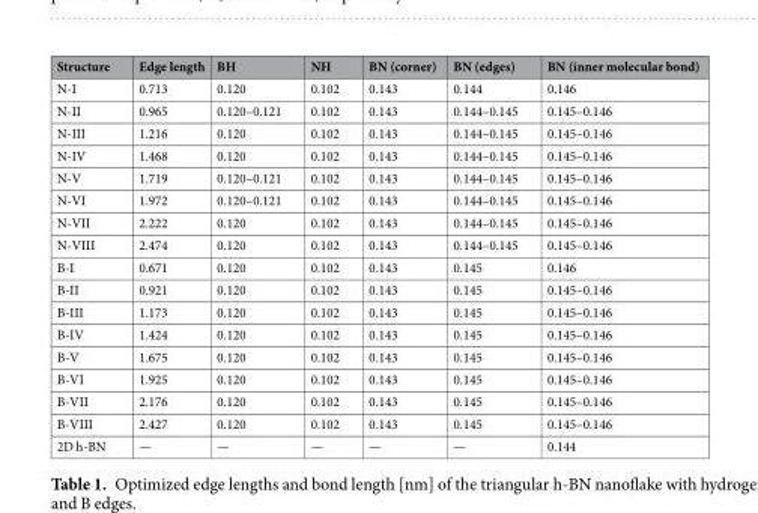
<table><thead><tr><td>Structure</td><td>Edge length</td><td>BH</td><td>NH</td><td>BN (corner)</td><td>BN (edges)</td><td>BN (inner molecular bond)</td></tr></thead><tbody><tr><td>N-I</td><td>0.713</td><td>0.120</td><td>0.102</td><td>0.143</td><td>0.144</td><td>0.146</td></tr><tr><td>N-II</td><td>0.965</td><td>0.120–0.121</td><td>0.102</td><td>0.143</td><td>0.144–0.145</td><td>0.145–0.146</td></tr><tr><td>N-III</td><td>1.216</td><td>0.120</td><td>0.102</td><td>0.143</td><td>0.144–0.145</td><td>0.145–0.146</td></tr><tr><td>N-IV</td><td>1.468</td><td>0.120</td><td>0.102</td><td>0.143</td><td>0.144–0.145</td><td>0.145–0.146</td></tr><tr><td>N-V</td><td>1.719</td><td>0.120–0.121</td><td>0.102</td><td>0.143</td><td>0.144–0.145</td><td>0.145–0.146</td></tr><tr><td>N-VI</td><td>1.972</td><td>0.120–0.121</td><td>0.102</td><td>0.143</td><td>0.144–0.145</td><td>0.145–0.146</td></tr><tr><td>N-VII</td><td>2.222</td><td>0.120</td><td>0.102</td><td>0.143</td><td>0.144–0.145</td><td>0.145–0.146</td></tr><tr><td>N-VIII</td><td>2.474</td><td>0.120</td><td>0.102</td><td>0.143</td><td>0.144–0.145</td><td>0.145–0.146</td></tr><tr><td>B-I</td><td>0.671</td><td>0.120</td><td>0.102</td><td>0.143</td><td>0.145</td><td>0.146</td></tr><tr><td>B-II</td><td>0.921</td><td>0.120</td><td>0.102</td><td>0.143</td><td>0.145</td><td>0.145–0.146</td></tr><tr><td>B-III</td><td>1.173</td><td>0.120</td><td>0.102</td><td>0.143</td><td>0.145</td><td>0.145–0.146</td></tr><tr><td>B-IV</td><td>1.424</td><td>0.120</td><td>0.102</td><td>0.143</td><td>0.145</td><td>0.145–0.146</td></tr><tr><td>B-V</td><td>1.675</td><td>0.120</td><td>0.102</td><td>0.143</td><td>0.145</td><td>0.145–0.146</td></tr><tr><td>B-VI</td><td>1.925</td><td>0.120</td><td>0.102</td><td>0.143</td><td>0.145</td><td>0.145–0.146</td></tr><tr><td>B-VII</td><td>2.176</td><td>0.120</td><td>0.102</td><td>0.143</td><td>0.145</td><td>0.145–0.146</td></tr><tr><td>B-VIII</td><td>2.427</td><td>0.120</td><td>0.102</td><td>0.143</td><td>0.145</td><td>0.145–0.146</td></tr><tr><td>2D h-BN</td><td>—</td><td>—</td><td>—</td><td>—</td><td>—</td><td>0.144</td></tr></tbody></table>